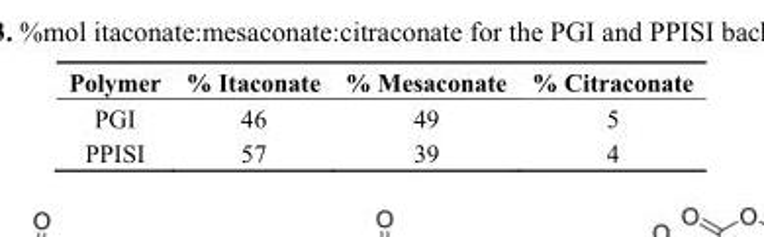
<table><thead><tr><td>Polymer</td><td>% Itaconate</td><td>% Mesaconate</td><td>% Citraconate</td></tr></thead><tbody><tr><td>PGI</td><td>46</td><td>49</td><td>5</td></tr><tr><td>PPISI</td><td>57</td><td>39</td><td>4</td></tr></tbody></table>